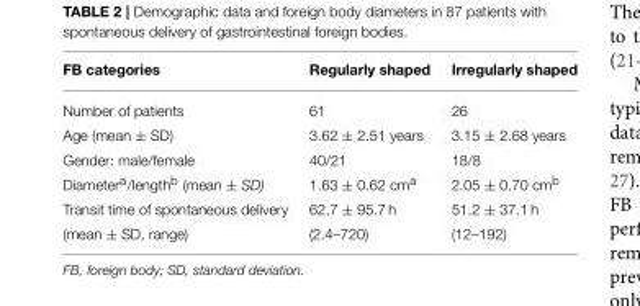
<table><thead><tr><td>FB categories</td><td>Regularly shaped</td><td>Irregularly shaped</td></tr></thead><tbody><tr><td>Number of patients</td><td>61</td><td>26</td></tr><tr><td>Age (mean ± SD)</td><td>3.62 ± 2.51 years</td><td>3.15 ± 2.68 years</td></tr><tr><td>Gender: male/female</td><td>40/21</td><td>18/8</td></tr><tr><td>Diameter<sup>a</sup>/length<sup>b</sup> (mean ± SD)</td><td>1.63 ± 0.62 cm<sup>a</sup></td><td>2.05 ± 0.70 cm<sup>b</sup></td></tr><tr><td>Transit time of spontaneous delivery</td><td>62.7 ± 95.7 h</td><td>51.2 ± 37.1 h</td></tr><tr><td>(mean ± SD, range)</td><td>(2.4–720)</td><td>(12–192)</td></tr></tbody></table>